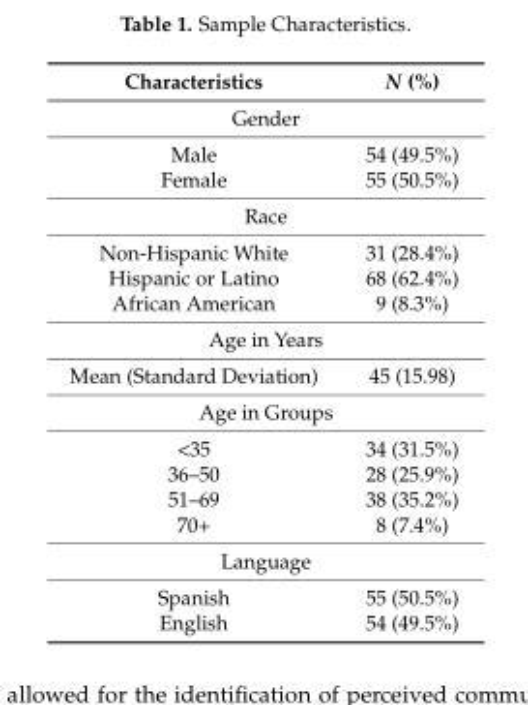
<table><thead><tr><td>Characteristics</td><td>N (%)</td></tr></thead><tbody><tr><td colspan="2">Gender</td></tr><tr><td>Male</td><td>54 (49.5%)</td></tr><tr><td>Female</td><td>55 (50.5%)</td></tr><tr><td colspan="2">Race</td></tr><tr><td>Non-Hispanic White</td><td>31 (28.4%)</td></tr><tr><td>Hispanic or Latino</td><td>68 (62.4%)</td></tr><tr><td>African American</td><td>9 (8.3%)</td></tr><tr><td colspan="2">Age in Years</td></tr><tr><td>Mean (Standard Deviation)</td><td>45 (15.98)</td></tr><tr><td colspan="2">Age in Groups</td></tr><tr><td>&lt;35</td><td>34 (31.5%)</td></tr><tr><td>36–50</td><td>28 (25.9%)</td></tr><tr><td>51–69</td><td>38 (35.2%)</td></tr><tr><td>70+</td><td>8 (7.4%)</td></tr><tr><td colspan="2">Language</td></tr><tr><td>Spanish</td><td>55 (50.5%)</td></tr><tr><td>English</td><td>54 (49.5%)</td></tr></tbody></table>